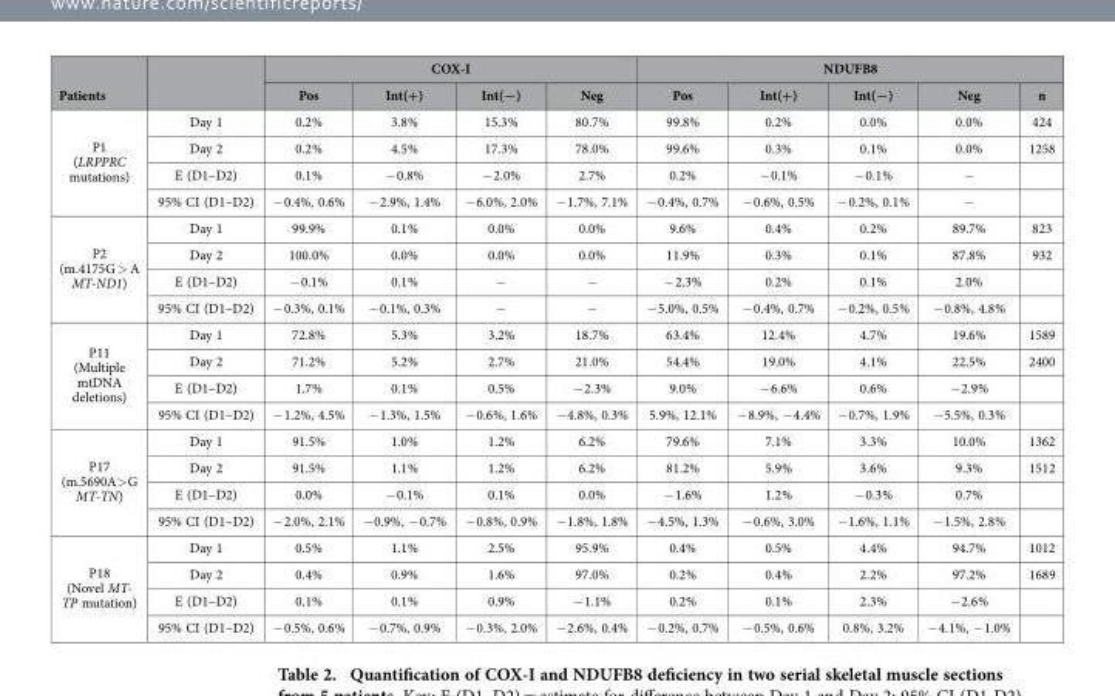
<table><thead><tr><td rowspan="2">Patients</td><td rowspan="2"></td><td colspan="4">COX-I</td><td colspan="5">NDUFB8</td></tr><tr><td>Pos</td><td>Int(+)</td><td>Int(−)</td><td>Neg</td><td>Pos</td><td>Int(+)</td><td>Int(−)</td><td>Neg</td><td>n</td></tr></thead><tbody><tr><td rowspan="4">P1 (LRPPRC mutations)</td><td>Day 1</td><td>0.2%</td><td>3.8%</td><td>15.3%</td><td>80.7%</td><td>99.8%</td><td>0.2%</td><td>0.0%</td><td>0.0%</td><td>424</td></tr><tr><td>Day 2</td><td>0.2%</td><td>4.5%</td><td>17.3%</td><td>78.0%</td><td>99.6%</td><td>0.3%</td><td>0.1%</td><td>0.0%</td><td>1258</td></tr><tr><td>E (D1–D2)</td><td>0.1%</td><td>− 0.8%</td><td>− 2.0%</td><td>2.7%</td><td>0.2%</td><td>− 0.1%</td><td>− 0.1%</td><td>−</td><td></td></tr><tr><td>95% CI (D1–D2)</td><td>− 0.4%, 0.6%</td><td>− 2.9%, 1.4%</td><td>− 6.0%, 2.0%</td><td>− 1.7%, 7.1%</td><td>− 0.4%, 0.7%</td><td>− 0.6%, 0.5%</td><td>− 0.2%, 0.1%</td><td>−</td><td></td></tr><tr><td rowspan="4">P2 (m.4175G &gt; A MT-ND1)</td><td>Day 1</td><td>99.9%</td><td>0.1%</td><td>0.0%</td><td>0.0%</td><td>9.6%</td><td>0.4%</td><td>0.2%</td><td>89.7%</td><td>823</td></tr><tr><td>Day 2</td><td>100.0%</td><td>0.0%</td><td>0.0%</td><td>0.0%</td><td>11.9%</td><td>0.3%</td><td>0.1%</td><td>87.8%</td><td>932</td></tr><tr><td>E (D1–D2)</td><td>− 0.1%</td><td>0.1%</td><td>−</td><td>−</td><td>− 2.3%</td><td>0.2%</td><td>0.1%</td><td>2.0%</td><td></td></tr><tr><td>95% CI (D1–D2)</td><td>− 0.3%, 0.1%</td><td>− 0.1%, 0.3%</td><td>−</td><td>−</td><td>− 5.0%, 0.5%</td><td>− 0.4%, 0.7%</td><td>− 0.2%, 0.5%</td><td>− 0.8%, 4.8%</td><td></td></tr><tr><td rowspan="4">P11 (Multiple mtDNA deletions)</td><td>Day 1</td><td>72.8%</td><td>5.3%</td><td>3.2%</td><td>18.7%</td><td>63.4%</td><td>12.4%</td><td>4.7%</td><td>19.6%</td><td>1589</td></tr><tr><td>Day 2</td><td>71.2%</td><td>5.2%</td><td>2.7%</td><td>21.0%</td><td>54.4%</td><td>19.0%</td><td>4.1%</td><td>22.5%</td><td>2400</td></tr><tr><td>E (D1–D2)</td><td>1.7%</td><td>0.1%</td><td>0.5%</td><td>− 2.3%</td><td>9.0%</td><td>− 6.6%</td><td>0.6%</td><td>− 2.9%</td><td></td></tr><tr><td>95% CI (D1–D2)</td><td>− 1.2%, 4.5%</td><td>− 1.3%, 1.5%</td><td>− 0.6%, 1.6%</td><td>− 4.8%, 0.3%</td><td>5.9%, 12.1%</td><td>− 8.9%, − 4.4%</td><td>− 0.7%, 1.9%</td><td>− 5.5%, 0.3%</td><td></td></tr><tr><td rowspan="4">P17 (m.5690A&gt; G MT-TN)</td><td>Day 1</td><td>91.5%</td><td>1.0%</td><td>1.2%</td><td>6.2%</td><td>79.6%</td><td>7.1%</td><td>3.3%</td><td>10.0%</td><td>1362</td></tr><tr><td>Day 2</td><td>91.5%</td><td>1.1%</td><td>1.2%</td><td>6.2%</td><td>81.2%</td><td>5.9%</td><td>3.6%</td><td>9.3%</td><td>1512</td></tr><tr><td>E (D1–D2)</td><td>0.0%</td><td>− 0.1%</td><td>0.1%</td><td>0.0%</td><td>− 1.6%</td><td>1.2%</td><td>− 0.3%</td><td>0.7%</td><td></td></tr><tr><td>95% CI (D1–D2)</td><td>− 2.0%, 2.1%</td><td>− 0.9%, − 0.7%</td><td>− 0.8%, 0.9%</td><td>− 1.8%, 1.8%</td><td>− 4.5%, 1.3%</td><td>− 0.6%, 3.0%</td><td>− 1.6%, 1.1%</td><td>− 1.5%, 2.8%</td><td></td></tr><tr><td rowspan="4">P18 (Novel MT- TP mutation)</td><td>Day 1</td><td>0.5%</td><td>1.1%</td><td>2.5%</td><td>95.9%</td><td>0.4%</td><td>0.5%</td><td>4.4%</td><td>94.7%</td><td>1012</td></tr><tr><td>Day 2</td><td>0.4%</td><td>0.9%</td><td>1.6%</td><td>97.0%</td><td>0.2%</td><td>0.4%</td><td>2.2%</td><td>97.2%</td><td>1689</td></tr><tr><td>E (D1–D2)</td><td>0.1%</td><td>0.1%</td><td>0.9%</td><td>− 1.1%</td><td>0.2%</td><td>0.1%</td><td>2.3%</td><td>− 2.6%</td><td></td></tr><tr><td>95% CI (D1–D2)</td><td>− 0.5%, 0.6%</td><td>− 0.7%, 0.9%</td><td>− 0.3%, 2.0%</td><td>− 2.6%, 0.4%</td><td>− 0.2%, 0.7%</td><td>− 0.5%, 0.6%</td><td>0.8%, 3.2%</td><td>− 4.1%, − 1.0%</td><td></td></tr></tbody></table>